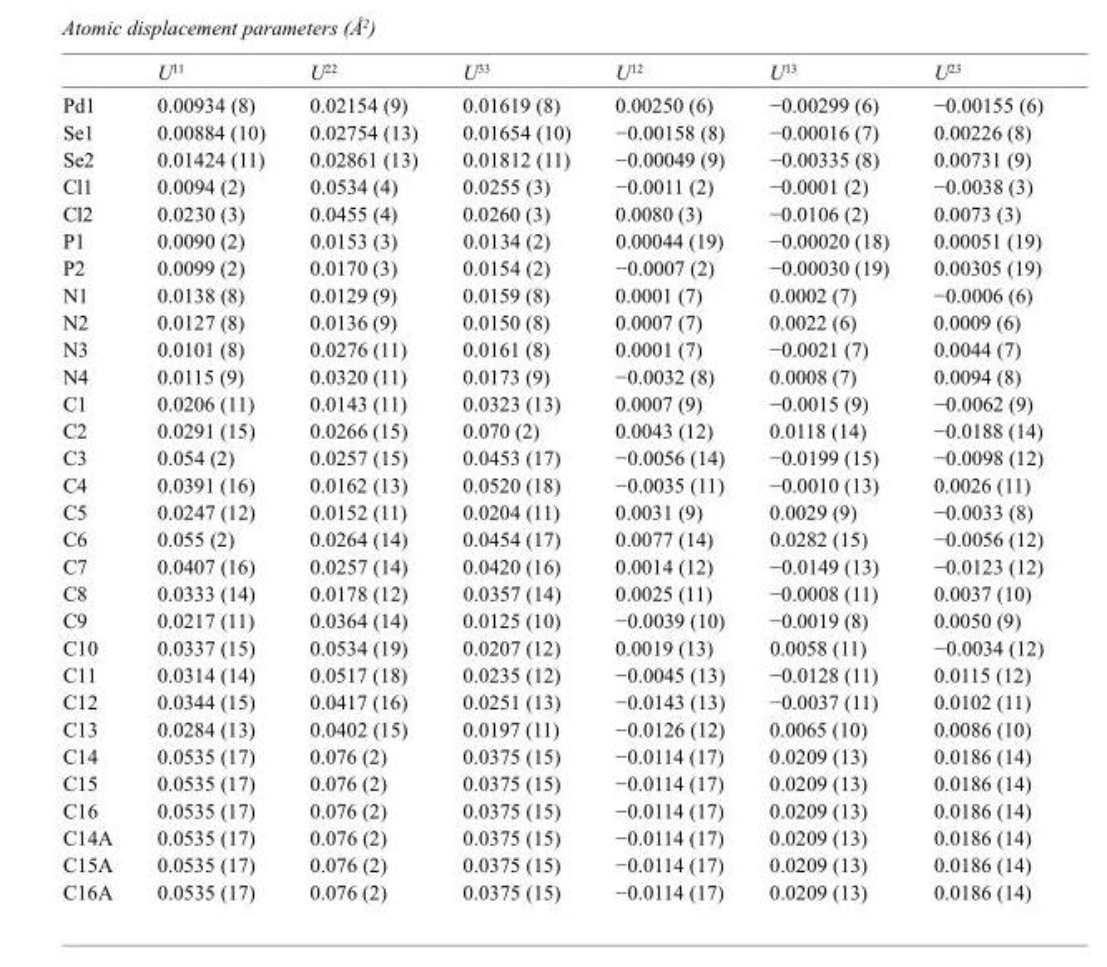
<table><thead><tr><td></td><td>U<sup>11</sup></td><td>U<sup>22</sup></td><td>U<sup>33</sup></td><td>U<sup>12</sup></td><td>U<sup>13</sup></td><td>U<sup>23</sup></td></tr></thead><tbody><tr><td>Pd1</td><td>0.00934 (8)</td><td>0.02154 (9)</td><td>0.01619 (8)</td><td>0.00250 (6)</td><td>−0.00299 (6)</td><td>−0.00155 (6)</td></tr><tr><td>Se1</td><td>0.00884 (10)</td><td>0.02754 (13)</td><td>0.01654 (10)</td><td>−0.00158 (8)</td><td>−0.00016 (7)</td><td>0.00226 (8)</td></tr><tr><td>Se2</td><td>0.01424 (11)</td><td>0.02861 (13)</td><td>0.01812 (11)</td><td>−0.00049 (9)</td><td>−0.00335 (8)</td><td>0.00731 (9)</td></tr><tr><td>Cl1</td><td>0.0094 (2)</td><td>0.0534 (4)</td><td>0.0255 (3)</td><td>−0.0011 (2)</td><td>−0.0001 (2)</td><td>−0.0038 (3)</td></tr><tr><td>Cl2</td><td>0.0230 (3)</td><td>0.0455 (4)</td><td>0.0260 (3)</td><td>0.0080 (3)</td><td>−0.0106 (2)</td><td>0.0073 (3)</td></tr><tr><td>P1</td><td>0.0090 (2)</td><td>0.0153 (3)</td><td>0.0134 (2)</td><td>0.00044 (19)</td><td>−0.00020 (18)</td><td>0.00051 (19)</td></tr><tr><td>P2</td><td>0.0099 (2)</td><td>0.0170 (3)</td><td>0.0154 (2)</td><td>−0.0007 (2)</td><td>−0.00030 (19)</td><td>0.00305 (19)</td></tr><tr><td>N1</td><td>0.0138 (8)</td><td>0.0129 (9)</td><td>0.0159 (8)</td><td>0.0001 (7)</td><td>0.0002 (7)</td><td>−0.0006 (6)</td></tr><tr><td>N2</td><td>0.0127 (8)</td><td>0.0136 (9)</td><td>0.0150 (8)</td><td>0.0007 (7)</td><td>0.0022 (6)</td><td>0.0009 (6)</td></tr><tr><td>N3</td><td>0.0101 (8)</td><td>0.0276 (11)</td><td>0.0161 (8)</td><td>0.0001 (7)</td><td>−0.0021 (7)</td><td>0.0044 (7)</td></tr><tr><td>N4</td><td>0.0115 (9)</td><td>0.0320 (11)</td><td>0.0173 (9)</td><td>−0.0032 (8)</td><td>0.0008 (7)</td><td>0.0094 (8)</td></tr><tr><td>C1</td><td>0.0206 (11)</td><td>0.0143 (11)</td><td>0.0323 (13)</td><td>0.0007 (9)</td><td>−0.0015 (9)</td><td>−0.0062 (9)</td></tr><tr><td>C2</td><td>0.0291 (15)</td><td>0.0266 (15)</td><td>0.070 (2)</td><td>0.0043 (12)</td><td>0.0118 (14)</td><td>−0.0188 (14)</td></tr><tr><td>C3</td><td>0.054 (2)</td><td>0.0257 (15)</td><td>0.0453 (17)</td><td>−0.0056 (14)</td><td>−0.0199 (15)</td><td>−0.0098 (12)</td></tr><tr><td>C4</td><td>0.0391 (16)</td><td>0.0162 (13)</td><td>0.0520 (18)</td><td>−0.0035 (11)</td><td>−0.0010 (13)</td><td>0.0026 (11)</td></tr><tr><td>C5</td><td>0.0247 (12)</td><td>0.0152 (11)</td><td>0.0204 (11)</td><td>0.0031 (9)</td><td>0.0029 (9)</td><td>−0.0033 (8)</td></tr><tr><td>C6</td><td>0.055 (2)</td><td>0.0264 (14)</td><td>0.0454 (17)</td><td>0.0077 (14)</td><td>0.0282 (15)</td><td>−0.0056 (12)</td></tr><tr><td>C7</td><td>0.0407 (16)</td><td>0.0257 (14)</td><td>0.0420 (16)</td><td>0.0014 (12)</td><td>−0.0149 (13)</td><td>−0.0123 (12)</td></tr><tr><td>C8</td><td>0.0333 (14)</td><td>0.0178 (12)</td><td>0.0357 (14)</td><td>0.0025 (11)</td><td>−0.0008 (11)</td><td>0.0037 (10)</td></tr><tr><td>C9</td><td>0.0217 (11)</td><td>0.0364 (14)</td><td>0.0125 (10)</td><td>−0.0039 (10)</td><td>−0.0019 (8)</td><td>0.0050 (9)</td></tr><tr><td>C10</td><td>0.0337 (15)</td><td>0.0534 (19)</td><td>0.0207 (12)</td><td>0.0019 (13)</td><td>0.0058 (11)</td><td>−0.0034 (12)</td></tr><tr><td>C11</td><td>0.0314 (14)</td><td>0.0517 (18)</td><td>0.0235 (12)</td><td>−0.0045 (13)</td><td>−0.0128 (11)</td><td>0.0115 (12)</td></tr><tr><td>C12</td><td>0.0344 (15)</td><td>0.0417 (16)</td><td>0.0251 (13)</td><td>−0.0143 (13)</td><td>−0.0037 (11)</td><td>0.0102 (11)</td></tr><tr><td>C13</td><td>0.0284 (13)</td><td>0.0402 (15)</td><td>0.0197 (11)</td><td>−0.0126 (12)</td><td>0.0065 (10)</td><td>0.0086 (10)</td></tr><tr><td>C14</td><td>0.0535 (17)</td><td>0.076 (2)</td><td>0.0375 (15)</td><td>−0.0114 (17)</td><td>0.0209 (13)</td><td>0.0186 (14)</td></tr><tr><td>C15</td><td>0.0535 (17)</td><td>0.076 (2)</td><td>0.0375 (15)</td><td>−0.0114 (17)</td><td>0.0209 (13)</td><td>0.0186 (14)</td></tr><tr><td>C16</td><td>0.0535 (17)</td><td>0.076 (2)</td><td>0.0375 (15)</td><td>−0.0114 (17)</td><td>0.0209 (13)</td><td>0.0186 (14)</td></tr><tr><td>C14A</td><td>0.0535 (17)</td><td>0.076 (2)</td><td>0.0375 (15)</td><td>−0.0114 (17)</td><td>0.0209 (13)</td><td>0.0186 (14)</td></tr><tr><td>C15A</td><td>0.0535 (17)</td><td>0.076 (2)</td><td>0.0375 (15)</td><td>−0.0114 (17)</td><td>0.0209 (13)</td><td>0.0186 (14)</td></tr><tr><td>C16A</td><td>0.0535 (17)</td><td>0.076 (2)</td><td>0.0375 (15)</td><td>−0.0114 (17)</td><td>0.0209 (13)</td><td>0.0186 (14)</td></tr></tbody></table>